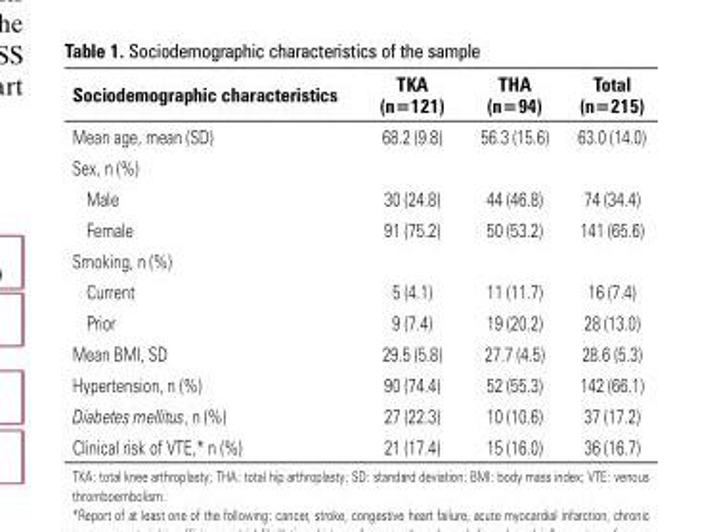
<table><thead><tr><td>sociodemographic characteristics</td><td>tKa (n=121)</td><td>tHa (n=94)</td><td>total (n=215)</td></tr></thead><tbody><tr><td>Mean age, mean (SD)</td><td>68.2 (9.8)</td><td>56.3 (15.6)</td><td>63.0 (14.0)</td></tr><tr><td colspan="4">Sex, n (%)</td></tr><tr><td>Male</td><td>30 (24.8)</td><td>44 (46.8)</td><td>74 (34.4)</td></tr><tr><td>Female</td><td>91 (75.2)</td><td>50 (53.2)</td><td>141 (65.6)</td></tr><tr><td colspan="4">Smoking, n (%)</td></tr><tr><td>Current</td><td>5 (4.1)</td><td>11 (11.7)</td><td>16 (7.4)</td></tr><tr><td>Prior</td><td>9 (7.4)</td><td>19 (20.2)</td><td>28 (13.0)</td></tr><tr><td>Mean BMI, SD</td><td>29.5 (5.8)</td><td>27.7 (4.5)</td><td>28.6 (5.3)</td></tr><tr><td>Hypertension, n (%)</td><td>90 (74.4)</td><td>52 (55.3)</td><td>142 (66.1)</td></tr><tr><td>Diabetes mellitus, n (%)</td><td>27 (22.3)</td><td>10 (10.6)</td><td>37 (17.2)</td></tr><tr><td>Clinical risk of VTE,* n (%)</td><td>21 (17.4)</td><td>15 (16.0)</td><td>36 (16.7)</td></tr></tbody></table>